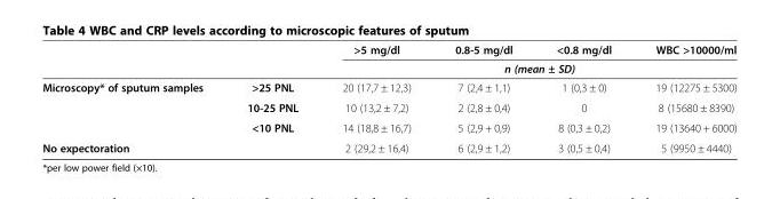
<table><thead><tr><td rowspan="2"></td><td rowspan="2"></td><td>&gt;5 mg/dl</td><td>0.8-5 mg/dl</td><td>&lt;0.8 mg/dl</td><td>WBC &gt;10000/ml</td></tr><tr><td colspan="4">n (mean ± SD)</td></tr></thead><tbody><tr><td rowspan="3">Microscopy* of sputum samples</td><td>&gt;25 PNL</td><td>20 (17,7 ± 12,3)</td><td>7 (2,4 ± 1,1)</td><td>1 (0,3 ± 0)</td><td>19 (12275 ± 5300)</td></tr><tr><td>10-25 PNL</td><td>10 (13,2 ± 7,2)</td><td>2 (2,8 ± 0,4)</td><td>0</td><td>8 (15680 ± 8390)</td></tr><tr><td>&lt;10 PNL</td><td>14 (18,8 ± 16,7)</td><td>5 (2,9 + 0,9)</td><td>8 (0,3 ± 0,2)</td><td>19 (13640 + 6000)</td></tr><tr><td colspan="2">No expectoration</td><td>2 (29,2 ± 16,4)</td><td>6 (2,9 ± 1,2)</td><td>3 (0,5 ± 0,4)</td><td>5 (9950 ± 4440)</td></tr></tbody></table>